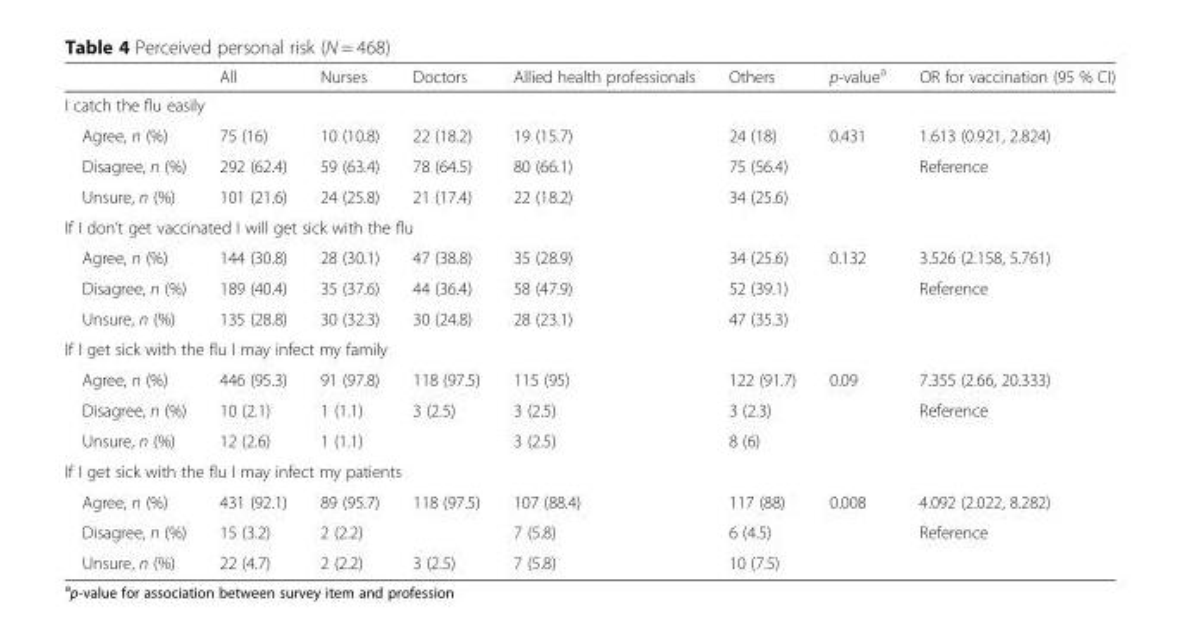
<table><thead><tr><td></td><td>All</td><td>Nurses</td><td>Doctors</td><td>Allied health professionals</td><td>Others</td><td>p-value<sup>a</sup></td><td>OR for vaccination (95 % CI)</td></tr></thead><tbody><tr><td colspan="8">I catch the flu easily</td></tr><tr><td>Agree, n (%)</td><td>75 (16)</td><td>10 (10.8)</td><td>22 (18.2)</td><td>19 (15.7)</td><td>24 (18)</td><td rowspan="3">0.431</td><td>1.613 (0.921, 2.824)</td></tr><tr><td>Disagree, n (%)</td><td>292 (62.4)</td><td>59 (63.4)</td><td>78 (64.5)</td><td>80 (66.1)</td><td>75 (56.4)</td><td rowspan="2">Reference</td></tr><tr><td>Unsure, n (%)</td><td>101 (21.6)</td><td>24 (25.8)</td><td>21 (17.4)</td><td>22 (18.2)</td><td>34 (25.6)</td></tr><tr><td colspan="8">If I don’t get vaccinated I will get sick with the flu</td></tr><tr><td>Agree, n (%)</td><td>144 (30.8)</td><td>28 (30.1)</td><td>47 (38.8)</td><td>35 (28.9)</td><td>34 (25.6)</td><td rowspan="3">0.132</td><td>3.526 (2.158, 5.761)</td></tr><tr><td>Disagree, n (%)</td><td>189 (40.4)</td><td>35 (37.6)</td><td>44 (36.4)</td><td>58 (47.9)</td><td>52 (39.1)</td><td rowspan="2">Reference</td></tr><tr><td>Unsure, n (%)</td><td>135 (28.8)</td><td>30 (32.3)</td><td>30 (24.8)</td><td>28 (23.1)</td><td>47 (35.3)</td></tr><tr><td colspan="8">If I get sick with the flu I may infect my family</td></tr><tr><td>Agree, n (%)</td><td>446 (95.3)</td><td>91 (97.8)</td><td>118 (97.5)</td><td>115 (95)</td><td>122 (91.7)</td><td rowspan="3">0.09</td><td>7.355 (2.66, 20.333)</td></tr><tr><td>Disagree, n (%)</td><td>10 (2.1)</td><td>1 (1.1)</td><td>3 (2.5)</td><td>3 (2.5)</td><td>3 (2.3)</td><td rowspan="2">Reference</td></tr><tr><td>Unsure, n (%)</td><td>12 (2.6)</td><td>1 (1.1)</td><td></td><td>3 (2.5)</td><td>8 (6)</td></tr><tr><td colspan="8">If I get sick with the flu I may infect my patients</td></tr><tr><td>Agree, n (%)</td><td>431 (92.1)</td><td>89 (95.7)</td><td>118 (97.5)</td><td>107 (88.4)</td><td>117 (88)</td><td rowspan="3">0.008</td><td>4.092 (2.022, 8.282)</td></tr><tr><td>Disagree, n (%)</td><td>15 (3.2)</td><td>2 (2.2)</td><td></td><td>7 (5.8)</td><td>6 (4.5)</td><td rowspan="2">Reference</td></tr><tr><td>Unsure, n (%)</td><td>22 (4.7)</td><td>2 (2.2)</td><td>3 (2.5)</td><td>7 (5.8)</td><td>10 (7.5)</td></tr></tbody></table>